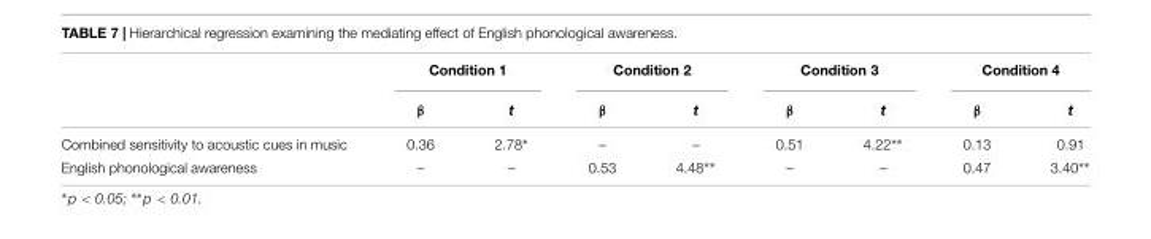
<table><thead><tr><td rowspan="2"></td><td colspan="2">Condition 1</td><td colspan="2">Condition 2</td><td colspan="2">Condition 3</td><td colspan="2">Condition 4</td></tr><tr><td>β</td><td>t</td><td>β</td><td>t</td><td>β</td><td>t</td><td>β</td><td>t</td></tr></thead><tbody><tr><td>Combined sensitivity to acoustic cues in music</td><td>0.36</td><td>2.78∗</td><td>–</td><td>–</td><td>0.51</td><td>4.22∗∗</td><td>0.13</td><td>0.91</td></tr><tr><td>English phonological awareness</td><td>–</td><td>–</td><td>0.53</td><td>4.48∗∗</td><td>–</td><td>–</td><td>0.47</td><td>3.40∗∗</td></tr></tbody></table>